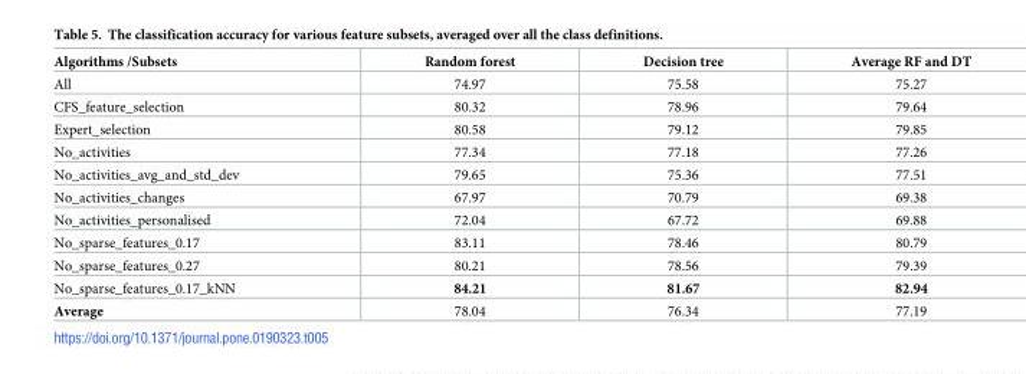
<table><thead><tr><td>Algorithms /Subsets</td><td>Random forest</td><td>Decision tree</td><td>Average RF and DT</td></tr></thead><tbody><tr><td>All</td><td>74.97</td><td>75.58</td><td>75.27</td></tr><tr><td>CFS_feature_selection</td><td>80.32</td><td>78.96</td><td>79.64</td></tr><tr><td>Expert_selection</td><td>80.58</td><td>79.12</td><td>79.85</td></tr><tr><td>No_activities</td><td>77.34</td><td>77.18</td><td>77.26</td></tr><tr><td>No_activities_avg_and_std_dev</td><td>79.65</td><td>75.36</td><td>77.51</td></tr><tr><td>No_activities_changes</td><td>67.97</td><td>70.79</td><td>69.38</td></tr><tr><td>No_activities_personalised</td><td>72.04</td><td>67.72</td><td>69.88</td></tr><tr><td>No_sparse_features_0.17</td><td>83.11</td><td>78.46</td><td>80.79</td></tr><tr><td>No_sparse_features_0.27</td><td>80.21</td><td>78.56</td><td>79.39</td></tr><tr><td>No_sparse_features_0.17_kNN</td><td>84.21</td><td>81.67</td><td>82.94</td></tr><tr><td>Average</td><td>78.04</td><td>76.34</td><td>77.19</td></tr></tbody></table>